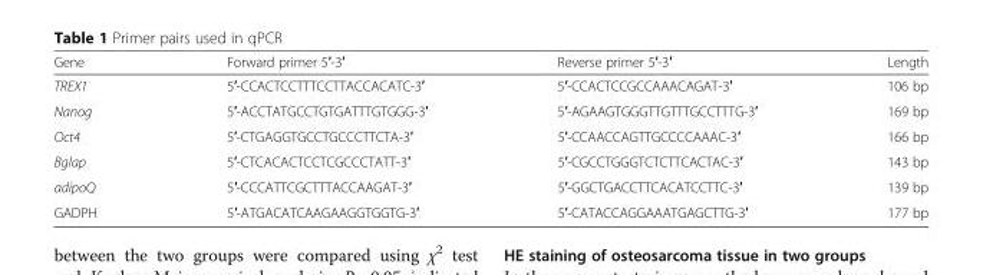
<table><thead><tr><td>Gene</td><td>Forward primer 5′-3′</td><td>Reverse primer 5′-3′</td><td>Length</td></tr></thead><tbody><tr><td>TREX1</td><td>5′-CCACTCCTTTCCTTACCACATC-3′</td><td>5′-CCACTCCGCCAAACAGAT-3′</td><td>106 bp</td></tr><tr><td>Nanog</td><td>5′-ACCTATGCCTGTGATTTGTGGG-3′</td><td>5′-AGAAGTGGGTTGTTTGCCTTTG-3′</td><td>169 bp</td></tr><tr><td>Oct4</td><td>5′-CTGAGGTGCCTGCCCTTCTA-3′</td><td>5′-CCAACCAGTTGCCCCAAAC-3′</td><td>166 bp</td></tr><tr><td>Bglap</td><td>5′-CTCACACTCCTCGCCCTATT-3′</td><td>5′-CGCCTGGGTCTCTTCACTAC-3′</td><td>143 bp</td></tr><tr><td>adipoQ</td><td>5′-CCCATTCGCTTTACCAAGAT-3′</td><td>5′-GGCTGACCTTCACATCCTTC-3′</td><td>139 bp</td></tr><tr><td>GADPH</td><td>5′-ATGACATCAAGAAGGTGGTG-3′</td><td>5′-CATACCAGGAAATGAGCTTG-3′</td><td>177 bp</td></tr></tbody></table>